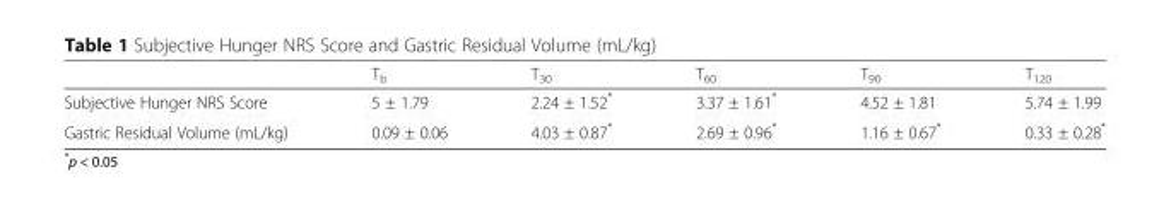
<table><thead><tr><td></td><td>T<sub>b</sub></td><td>T<sub>30</sub></td><td>T<sub>60</sub></td><td>T<sub>90</sub></td><td>T<sub>120</sub></td></tr></thead><tbody><tr><td>Subjective Hunger NRS Score</td><td>5 ± 1.79</td><td>2.24 ± 1.52*</td><td>3.37 ± 1.61*</td><td>4.52 ± 1.81</td><td>5.74 ± 1.99</td></tr><tr><td>Gastric Residual Volume (mL/kg)</td><td>0.09 ± 0.06</td><td>4.03 ± 0.87*</td><td>2.69 ± 0.96*</td><td>1.16 ± 0.67*</td><td>0.33 ± 0.28*</td></tr></tbody></table>